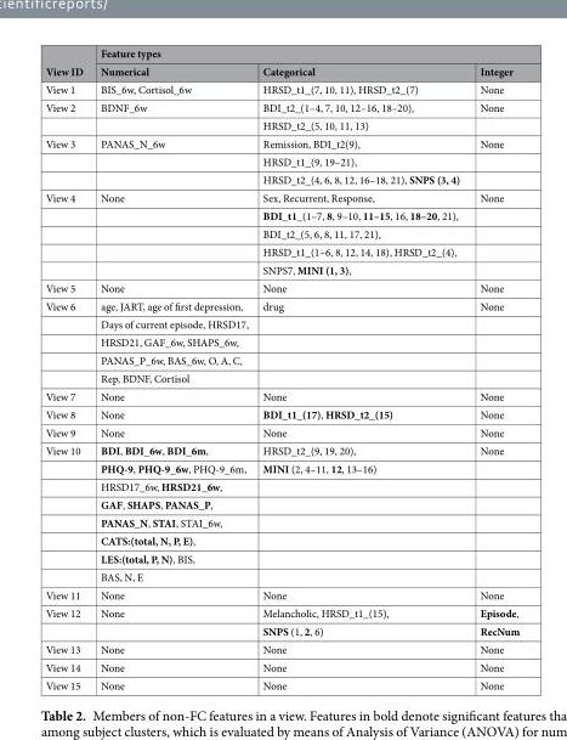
<table><thead><tr><td rowspan="2">View ID</td><td colspan="3">Feature types</td></tr><tr><td>Numerical</td><td>Categorical</td><td>Integer</td></tr></thead><tbody><tr><td>View 1</td><td>BIS_6w, Cortisol_6w</td><td>HRSD_t1_(7, 10, 11), HRSD_t2_(7)</td><td>None</td></tr><tr><td rowspan="2">View 2</td><td>BDNF_6w</td><td>BDI_t2_(1–4, 7, 10, 12–16, 18–20),</td><td>None</td></tr><tr><td></td><td>HRSD_t2_(5, 10, 11, 13)</td><td></td></tr><tr><td rowspan="3">View 3</td><td>PANAS_N_6w</td><td>Remission, BDI_t2(9),</td><td>None</td></tr><tr><td></td><td>HRSD_t1_(9, 19–21),</td><td></td></tr><tr><td></td><td>HRSD_t2_(4, 6, 8, 12, 16–18, 21), SNPS (3, 4)</td><td></td></tr><tr><td rowspan="5">View 4</td><td>None</td><td>Sex, Recurrent, Response,</td><td>None</td></tr><tr><td></td><td>BDI_t1_(1–7, 8, 9–10, 11–15, 16, 18–20, 21),</td><td></td></tr><tr><td></td><td>BDI_t2_(5, 6, 8, 11, 17, 21),</td><td></td></tr><tr><td></td><td>HRSD_t1_(1–6, 8, 12, 14, 18), HRSD_t2_(4),</td><td></td></tr><tr><td></td><td>SNPS7, MINI (1, 3),</td><td></td></tr><tr><td>View 5</td><td>None</td><td>None</td><td>None</td></tr><tr><td rowspan="5">View 6</td><td>age, JART, age of first depression,</td><td>drug</td><td>None</td></tr><tr><td>Days of current episode, HRSD17,</td><td></td><td></td></tr><tr><td>HRSD21, GAF_6w, SHAPS_6w,</td><td></td><td></td></tr><tr><td>PANAS_P_6w, BAS_6w, O, A, C,</td><td></td><td></td></tr><tr><td>Rep, BDNF, Cortisol</td><td></td><td></td></tr><tr><td>View 7</td><td>None</td><td>None</td><td>None</td></tr><tr><td>View 8</td><td>None</td><td>BDI_t1_(17), HRSD_t2_(15)</td><td>None</td></tr><tr><td>View 9</td><td>None</td><td>None</td><td>None</td></tr><tr><td rowspan="8">View 10</td><td>BDI, BDI_6w, BDI_6m,</td><td>HRSD_t2_(9, 19, 20),</td><td>None</td></tr><tr><td>PHQ-9, PHQ-9_6w, PHQ-9_6m,</td><td>MINI (2, 4–11, 12, 13–16)</td><td></td></tr><tr><td>HRSD17_6w, HRSD21_6w,</td><td></td><td></td></tr><tr><td>GAF, SHAPS, PANAS_P,</td><td></td><td></td></tr><tr><td>PANAS_N, STAI, STAI_6w,</td><td></td><td></td></tr><tr><td>CATS:(total, N, P, E),</td><td></td><td></td></tr><tr><td>LES:(total, P, N), BIS,</td><td></td><td></td></tr><tr><td>BAS, N, E</td><td></td><td></td></tr><tr><td>View 11</td><td>None</td><td>None</td><td>None</td></tr><tr><td rowspan="2">View 12</td><td>None</td><td>Melancholic, HRSD_t1_(15),</td><td>Episode,</td></tr><tr><td></td><td>SNPS (1, 2, 6)</td><td>RecNum</td></tr><tr><td>View 13</td><td>None</td><td>None</td><td>None</td></tr><tr><td>View 14</td><td>None</td><td>None</td><td>None</td></tr><tr><td>View 15</td><td>None</td><td>None</td><td>None</td></tr></tbody></table>